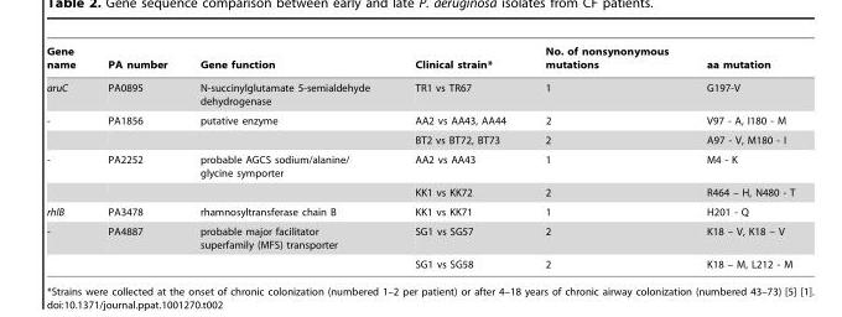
<table><thead><tr><td>Gene name</td><td>PA number</td><td>Gene function</td><td>Clinical strain*</td><td>No. of nonsynonymous mutations</td><td>aa mutation</td></tr></thead><tbody><tr><td>aruC</td><td>PA0895</td><td>N-succinylglutamate 5-semialdehyde dehydrogenase</td><td>TR1 vs TR67</td><td>1</td><td>G197-V</td></tr><tr><td rowspan="2">-</td><td>PA1856</td><td>putative enzyme</td><td>AA2 vs AA43, AA44</td><td>2</td><td>V97 - A, I180 - M</td></tr><tr><td></td><td></td><td>BT2 vs BT72, BT73</td><td>2</td><td>A97 - V, M180 - I</td></tr><tr><td rowspan="2">-</td><td>PA2252</td><td>probable AGCS sodium/alanine/ glycine symporter</td><td>AA2 vs AA43</td><td>1</td><td>M4 - K</td></tr><tr><td></td><td></td><td>KK1 vs KK72</td><td>2</td><td>R464 – H, N480 - T</td></tr><tr><td>rhlB</td><td>PA3478</td><td>rhamnosyltransferase chain B</td><td>KK1 vs KK71</td><td>1</td><td>H201 - Q</td></tr><tr><td rowspan="2">-</td><td>PA4887</td><td>probable major facilitator superfamily (MFS) transporter</td><td>SG1 vs SG57</td><td>2</td><td>K18 – V, K18 – V</td></tr><tr><td></td><td></td><td>SG1 vs SG58</td><td>2</td><td>K18 – M, L212 - M</td></tr></tbody></table>